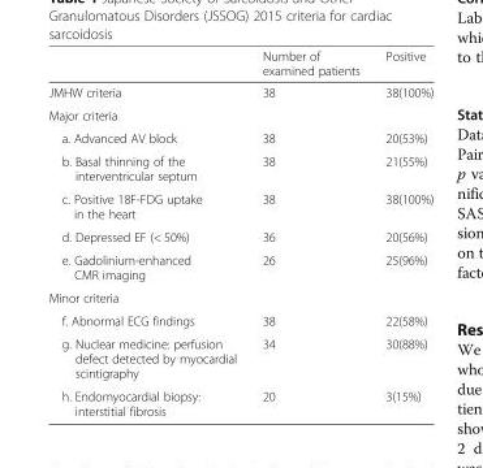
<table><thead><tr><td></td><td>Number of examined patients</td><td>Positive</td></tr></thead><tbody><tr><td>JMHW criteria</td><td>38</td><td>38(100%)</td></tr><tr><td colspan="3">Major criteria</td></tr><tr><td>a. Advanced AV block</td><td>38</td><td>20(53%)</td></tr><tr><td>b. Basal thinning of the interventricular septum</td><td>38</td><td>21(55%)</td></tr><tr><td>c. Positive 18F-FDG uptake in the heart</td><td>38</td><td>38(100%)</td></tr><tr><td>d. Depressed EF (&lt; 50%)</td><td>36</td><td>20(56%)</td></tr><tr><td>e. Gadolinium-enhanced CMR imaging</td><td>26</td><td>25(96%)</td></tr><tr><td colspan="3">Minor criteria</td></tr><tr><td>f. Abnormal ECG findings</td><td>38</td><td>22(58%)</td></tr><tr><td>g. Nuclear medicine: perfusion defect detected by myocardial scintigraphy</td><td>34</td><td>30(88%)</td></tr><tr><td>h. Endomyocardial biopsy: interstitial fibrosis</td><td>20</td><td>3(15%)</td></tr></tbody></table>